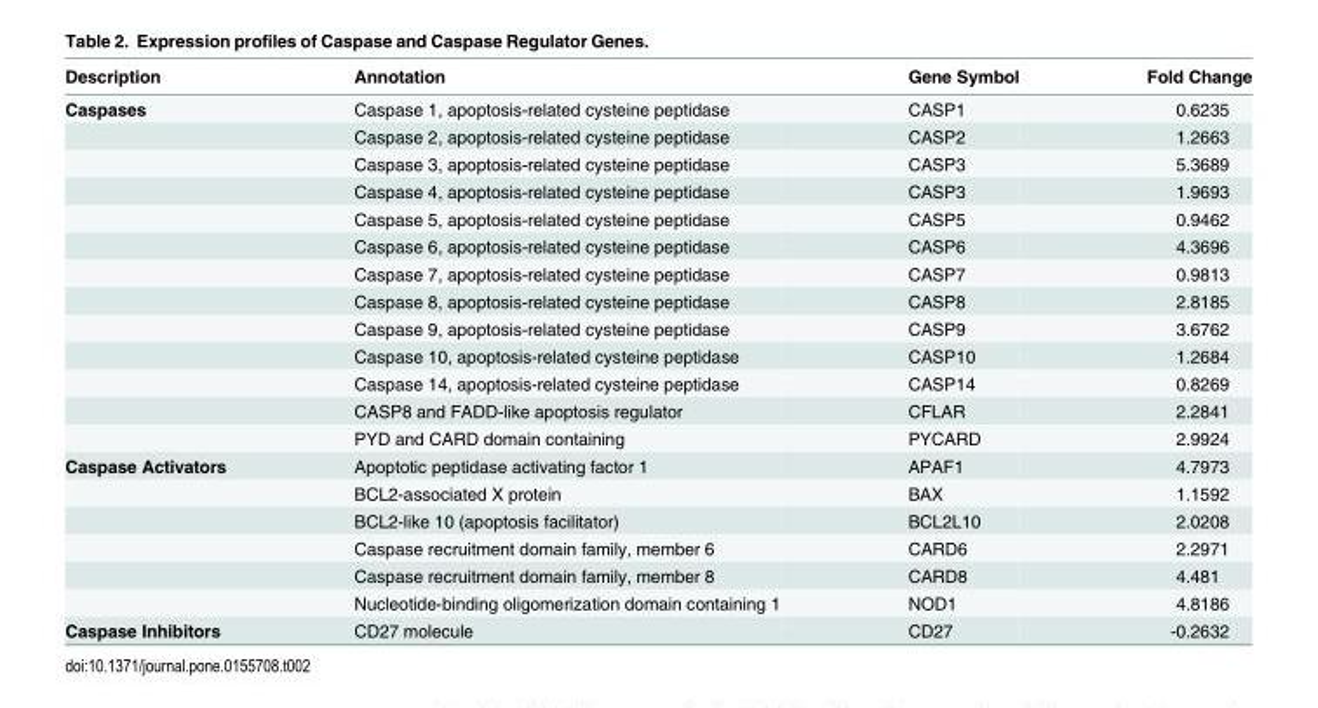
<table><thead><tr><td>Description</td><td>Annotation</td><td>Gene Symbol</td><td>Fold Change</td></tr></thead><tbody><tr><td rowspan="13">Caspases</td><td>Caspase 1, apoptosis-related cysteine peptidase</td><td>CASP1</td><td>0.6235</td></tr><tr><td>Caspase 2, apoptosis-related cysteine peptidase</td><td>CASP2</td><td>1.2663</td></tr><tr><td>Caspase 3, apoptosis-related cysteine peptidase</td><td>CASP3</td><td>5.3689</td></tr><tr><td>Caspase 4, apoptosis-related cysteine peptidase</td><td>CASP3</td><td>1.9693</td></tr><tr><td>Caspase 5, apoptosis-related cysteine peptidase</td><td>CASP5</td><td>0.9462</td></tr><tr><td>Caspase 6, apoptosis-related cysteine peptidase</td><td>CASP6</td><td>4.3696</td></tr><tr><td>Caspase 7, apoptosis-related cysteine peptidase</td><td>CASP7</td><td>0.9813</td></tr><tr><td>Caspase 8, apoptosis-related cysteine peptidase</td><td>CASP8</td><td>2.8185</td></tr><tr><td>Caspase 9, apoptosis-related cysteine peptidase</td><td>CASP9</td><td>3.6762</td></tr><tr><td>Caspase 10, apoptosis-related cysteine peptidase</td><td>CASP10</td><td>1.2684</td></tr><tr><td>Caspase 14, apoptosis-related cysteine peptidase</td><td>CASP14</td><td>0.8269</td></tr><tr><td>CASP8 and FADD-like apoptosis regulator</td><td>CFLAR</td><td>2.2841</td></tr><tr><td>PYD and CARD domain containing</td><td>PYCARD</td><td>2.9924</td></tr><tr><td rowspan="6">Caspase Activators</td><td>Apoptotic peptidase activating factor 1</td><td>APAF1</td><td>4.7973</td></tr><tr><td>BCL2-associated X protein</td><td>BAX</td><td>1.1592</td></tr><tr><td>BCL2-like 10 (apoptosis facilitator)</td><td>BCL2L10</td><td>2.0208</td></tr><tr><td>Caspase recruitment domain family, member 6</td><td>CARD6</td><td>2.2971</td></tr><tr><td>Caspase recruitment domain family, member 8</td><td>CARD8</td><td>4.481</td></tr><tr><td>Nucleotide-binding oligomerization domain containing 1</td><td>NOD1</td><td>4.8186</td></tr><tr><td>Caspase Inhibitors</td><td>CD27 molecule</td><td>CD27</td><td>-0.2632</td></tr></tbody></table>